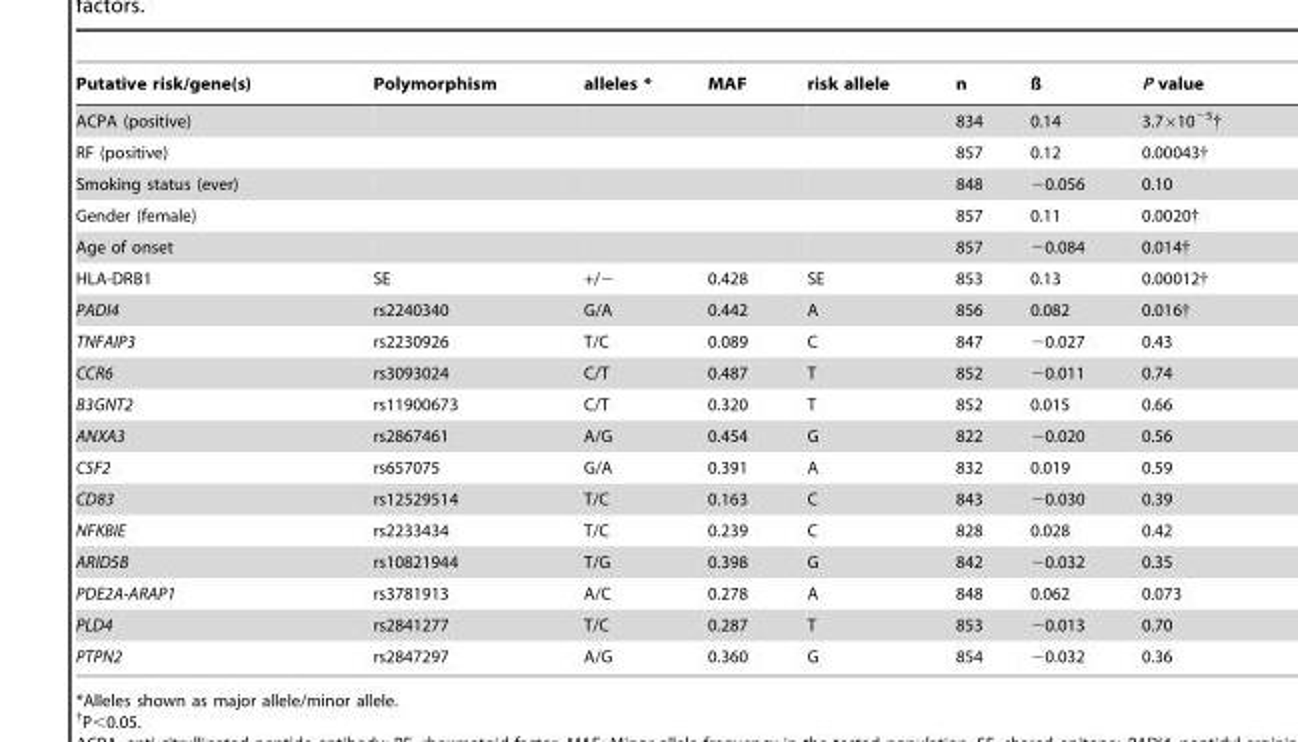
<table><thead><tr><td>Putative risk/gene(s)</td><td>Polymorphism</td><td>alleles *</td><td>MAF</td><td>risk allele</td><td>n</td><td>ß</td><td>P value</td></tr></thead><tbody><tr><td>ACPA (positive)</td><td></td><td></td><td></td><td></td><td>834</td><td>0.14</td><td>3.7×10<sup>−5</sup>†</td></tr><tr><td>RF (positive)</td><td></td><td></td><td></td><td></td><td>857</td><td>0.12</td><td>0.00043†</td></tr><tr><td>Smoking status (ever)</td><td></td><td></td><td></td><td></td><td>848</td><td>−0.056</td><td>0.10</td></tr><tr><td>Gender (female)</td><td></td><td></td><td></td><td></td><td>857</td><td>0.11</td><td>0.0020†</td></tr><tr><td>Age of onset</td><td></td><td></td><td></td><td></td><td>857</td><td>−0.084</td><td>0.014†</td></tr><tr><td>HLA-DRB1</td><td>SE</td><td>+/−</td><td>0.428</td><td>SE</td><td>853</td><td>0.13</td><td>0.00012†</td></tr><tr><td>PADI4</td><td>rs2240340</td><td>G/A</td><td>0.442</td><td>A</td><td>856</td><td>0.082</td><td>0.016†</td></tr><tr><td>TNFAIP3</td><td>rs2230926</td><td>T/C</td><td>0.089</td><td>C</td><td>847</td><td>−0.027</td><td>0.43</td></tr><tr><td>CCR6</td><td>rs3093024</td><td>C/T</td><td>0.487</td><td>T</td><td>852</td><td>−0.011</td><td>0.74</td></tr><tr><td>B3GNT2</td><td>rs11900673</td><td>C/T</td><td>0.320</td><td>T</td><td>852</td><td>0.015</td><td>0.66</td></tr><tr><td>ANXA3</td><td>rs2867461</td><td>A/G</td><td>0.454</td><td>G</td><td>822</td><td>−0.020</td><td>0.56</td></tr><tr><td>CSF2</td><td>rs657075</td><td>G/A</td><td>0.391</td><td>A</td><td>832</td><td>0.019</td><td>0.59</td></tr><tr><td>CD83</td><td>rs12529514</td><td>T/C</td><td>0.163</td><td>C</td><td>843</td><td>−0.030</td><td>0.39</td></tr><tr><td>NFKBIE</td><td>rs2233434</td><td>T/C</td><td>0.239</td><td>C</td><td>828</td><td>0.028</td><td>0.42</td></tr><tr><td>ARID5B</td><td>rs10821944</td><td>T/G</td><td>0.398</td><td>G</td><td>842</td><td>−0.032</td><td>0.35</td></tr><tr><td>PDE2A-ARAP1</td><td>rs3781913</td><td>A/C</td><td>0.278</td><td>A</td><td>848</td><td>0.062</td><td>0.073</td></tr><tr><td>PLD4</td><td>rs2841277</td><td>T/C</td><td>0.287</td><td>T</td><td>853</td><td>−0.013</td><td>0.70</td></tr><tr><td>PTPN2</td><td>rs2847297</td><td>A/G</td><td>0.360</td><td>G</td><td>854</td><td>−0.032</td><td>0.36</td></tr></tbody></table>